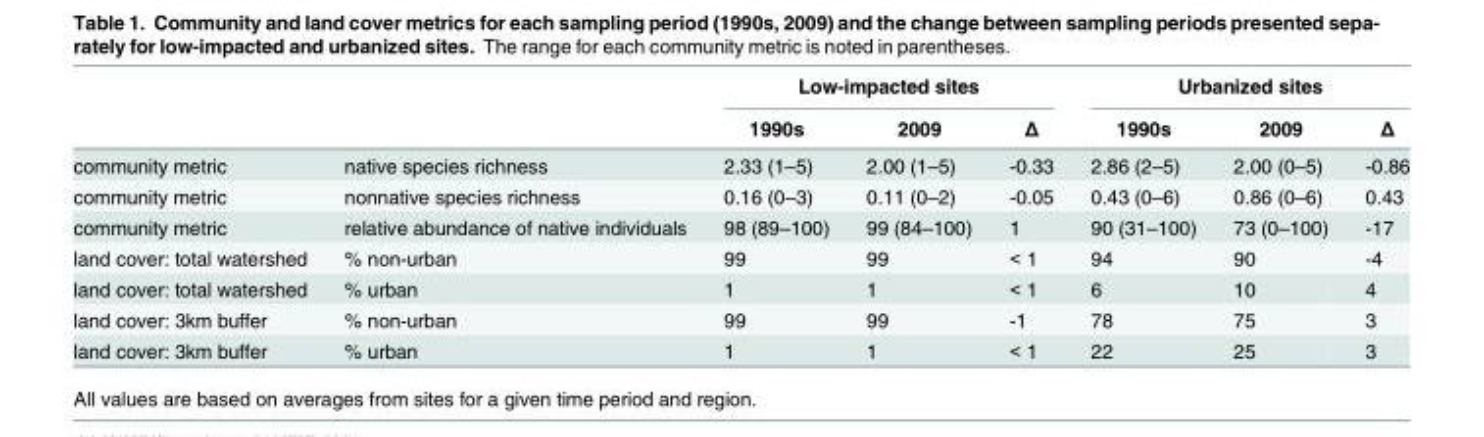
<table><thead><tr><td rowspan="2"></td><td rowspan="2"></td><td colspan="3">Low-impacted sites</td><td colspan="3">Urbanized sites</td></tr><tr><td>1990s</td><td>2009</td><td>Δ</td><td>1990s</td><td>2009</td><td>Δ</td></tr></thead><tbody><tr><td>community metric</td><td>native species richness</td><td>2.33 (1–5)</td><td>2.00 (1–5)</td><td>-0.33</td><td>2.86 (2–5)</td><td>2.00 (0–5)</td><td>-0.86</td></tr><tr><td>community metric</td><td>nonnative species richness</td><td>0.16 (0–3)</td><td>0.11 (0–2)</td><td>-0.05</td><td>0.43 (0–6)</td><td>0.86 (0–6)</td><td>0.43</td></tr><tr><td>community metric</td><td>relative abundance of native individuals</td><td>98 (89–100)</td><td>99 (84–100)</td><td>1</td><td>90 (31–100)</td><td>73 (0–100)</td><td>-17</td></tr><tr><td>land cover: total watershed</td><td>% non-urban</td><td>99</td><td>99</td><td>&lt; 1</td><td>94</td><td>90</td><td>-4</td></tr><tr><td>land cover: total watershed</td><td>% urban</td><td>1</td><td>1</td><td>&lt; 1</td><td>6</td><td>10</td><td>4</td></tr><tr><td>land cover: 3km buffer</td><td>% non-urban</td><td>99</td><td>99</td><td>-1</td><td>78</td><td>75</td><td>3</td></tr><tr><td>land cover: 3km buffer</td><td>% urban</td><td>1</td><td>1</td><td>&lt; 1</td><td>22</td><td>25</td><td>3</td></tr></tbody></table>